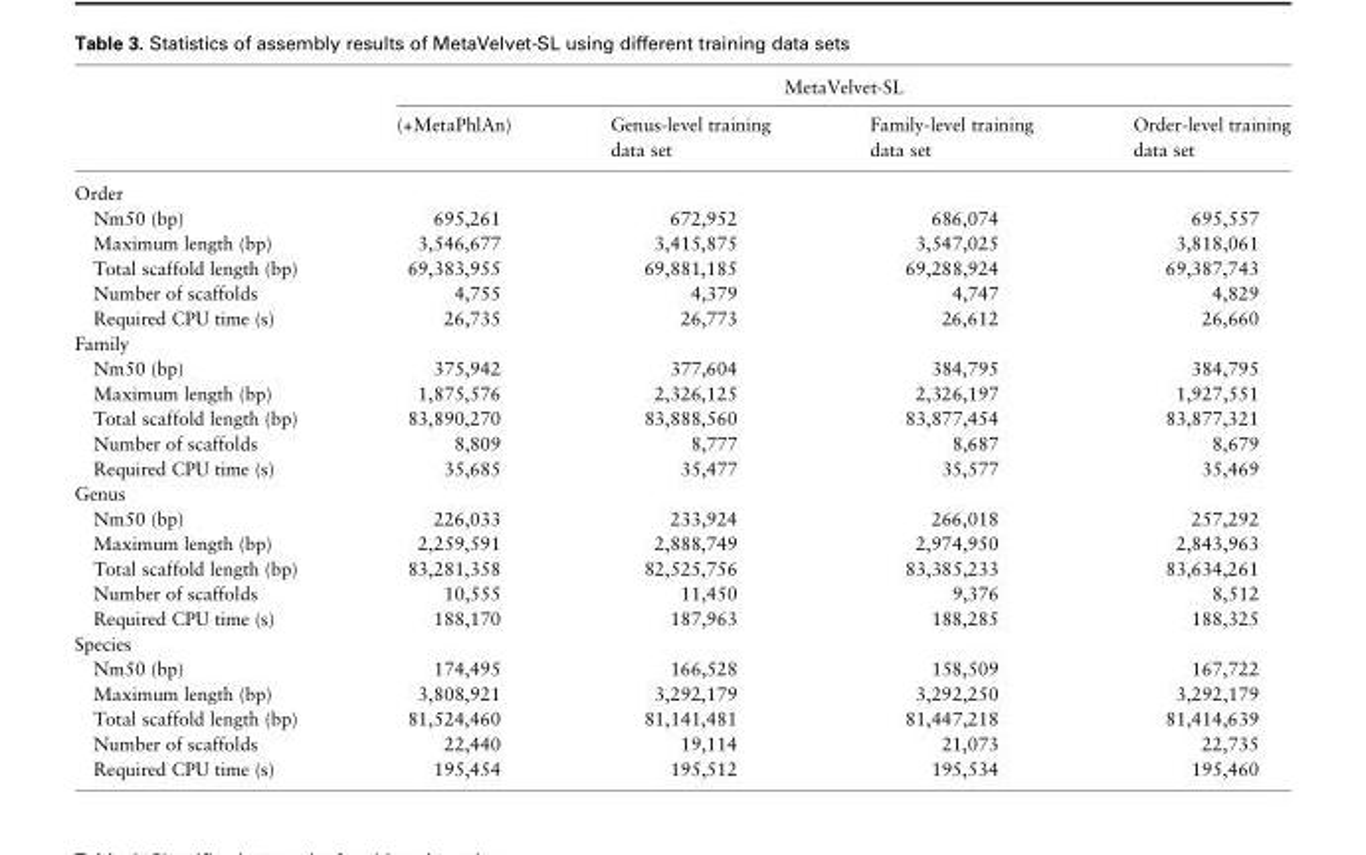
<table><thead><tr><td rowspan="2"></td><td colspan="4">MetaVelvet-SL</td></tr><tr><td>(+MetaPhlAn)</td><td>Genus-level training data set</td><td>Family-level training data set</td><td>Order-level training data set</td></tr></thead><tbody><tr><td colspan="5">Order</td></tr><tr><td>Nm50 (bp)</td><td>695,261</td><td>672,952</td><td>686,074</td><td>695,557</td></tr><tr><td>Maximum length (bp)</td><td>3,546,677</td><td>3,415,875</td><td>3,547,025</td><td>3,818,061</td></tr><tr><td>Total scaffold length (bp)</td><td>69,383,955</td><td>69,881,185</td><td>69,288,924</td><td>69,387,743</td></tr><tr><td>Number of scaffolds</td><td>4,755</td><td>4,379</td><td>4,747</td><td>4,829</td></tr><tr><td>Required CPU time (s)</td><td>26,735</td><td>26,773</td><td>26,612</td><td>26,660</td></tr><tr><td colspan="5">Family</td></tr><tr><td>Nm50 (bp)</td><td>375,942</td><td>377,604</td><td>384,795</td><td>384,795</td></tr><tr><td>Maximum length (bp)</td><td>1,875,576</td><td>2,326,125</td><td>2,326,197</td><td>1,927,551</td></tr><tr><td>Total scaffold length (bp)</td><td>83,890,270</td><td>83,888,560</td><td>83,877,454</td><td>83,877,321</td></tr><tr><td>Number of scaffolds</td><td>8,809</td><td>8,777</td><td>8,687</td><td>8,679</td></tr><tr><td>Required CPU time (s)</td><td>35,685</td><td>35,477</td><td>35,577</td><td>35,469</td></tr><tr><td colspan="5">Genus</td></tr><tr><td>Nm50 (bp)</td><td>226,033</td><td>233,924</td><td>266,018</td><td>257,292</td></tr><tr><td>Maximum length (bp)</td><td>2,259,591</td><td>2,888,749</td><td>2,974,950</td><td>2,843,963</td></tr><tr><td>Total scaffold length (bp)</td><td>83,281,358</td><td>82,525,756</td><td>83,385,233</td><td>83,634,261</td></tr><tr><td>Number of scaffolds</td><td>10,555</td><td>11,450</td><td>9,376</td><td>8,512</td></tr><tr><td>Required CPU time (s)</td><td>188,170</td><td>187,963</td><td>188,285</td><td>188,325</td></tr><tr><td colspan="5">Species</td></tr><tr><td>Nm50 (bp)</td><td>174,495</td><td>166,528</td><td>158,509</td><td>167,722</td></tr><tr><td>Maximum length (bp)</td><td>3,808,921</td><td>3,292,179</td><td>3,292,250</td><td>3,292,179</td></tr><tr><td>Total scaffold length (bp)</td><td>81,524,460</td><td>81,141,481</td><td>81,447,218</td><td>81,414,639</td></tr><tr><td>Number of scaffolds</td><td>22,440</td><td>19,114</td><td>21,073</td><td>22,735</td></tr><tr><td>Required CPU time (s)</td><td>195,454</td><td>195,512</td><td>195,534</td><td>195,460</td></tr></tbody></table>